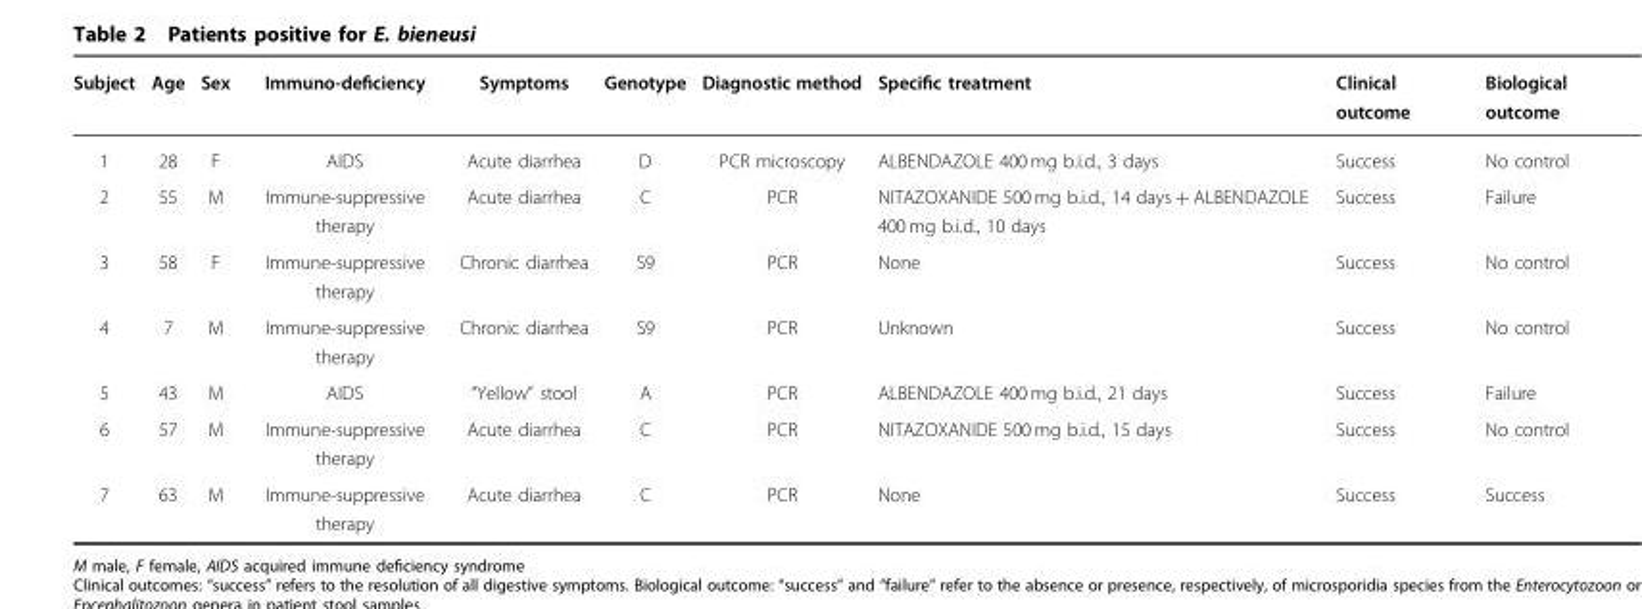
<table><thead><tr><td>Subject</td><td>Age</td><td>Sex</td><td>Immuno-deficiency</td><td>Symptoms</td><td>Genotype</td><td>Diagnostic method</td><td>Specific treatment</td><td>Clinical outcome</td><td>Biological outcome</td></tr></thead><tbody><tr><td>1</td><td>28</td><td>F</td><td>AIDS</td><td>Acute diarrhea</td><td>D</td><td>PCR microscopy</td><td>ALBENDAZOLE 400 mg b.i.d., 3 days</td><td>Success</td><td>No control</td></tr><tr><td>2</td><td>55</td><td>M</td><td>Immune-suppressive therapy</td><td>Acute diarrhea</td><td>C</td><td>PCR</td><td>NITAZOXANIDE 500 mg b.i.d., 14 days + ALBENDAZOLE 400 mg b.i.d., 10 days</td><td>Success</td><td>Failure</td></tr><tr><td>3</td><td>58</td><td>F</td><td>Immune-suppressive therapy</td><td>Chronic diarrhea</td><td>S9</td><td>PCR</td><td>None</td><td>Success</td><td>No control</td></tr><tr><td>4</td><td>7</td><td>M</td><td>Immune-suppressive therapy</td><td>Chronic diarrhea</td><td>S9</td><td>PCR</td><td>Unknown</td><td>Success</td><td>No control</td></tr><tr><td>5</td><td>43</td><td>M</td><td>AIDS</td><td>“Yellow” stool</td><td>A</td><td>PCR</td><td>ALBENDAZOLE 400 mg b.i.d., 21 days</td><td>Success</td><td>Failure</td></tr><tr><td>6</td><td>57</td><td>M</td><td>Immune-suppressive therapy</td><td>Acute diarrhea</td><td>C</td><td>PCR</td><td>NITAZOXANIDE 500 mg b.i.d., 15 days</td><td>Success</td><td>No control</td></tr><tr><td>7</td><td>63</td><td>M</td><td>Immune-suppressive therapy</td><td>Acute diarrhea</td><td>C</td><td>PCR</td><td>None</td><td>Success</td><td>Success</td></tr></tbody></table>